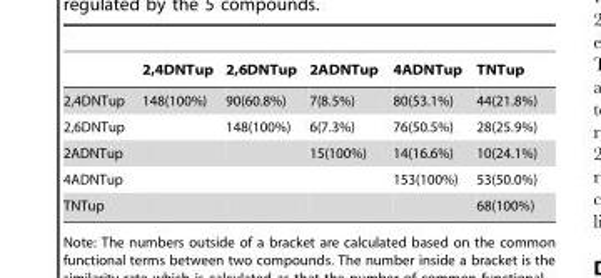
<table><thead><tr><td></td><td>2,4DNTup</td><td>2,6DNTup</td><td>2ADNTup</td><td>4ADNTup</td><td>TNTup</td></tr></thead><tbody><tr><td>2,4DNTup</td><td>148(100%)</td><td>90(60.8%)</td><td>7(8.5%)</td><td>80(53.1%)</td><td>44(21.8%)</td></tr><tr><td>2,6DNTup</td><td></td><td>148(100%)</td><td>6(7.3%)</td><td>76(50.5%)</td><td>28(25.9%)</td></tr><tr><td>2ADNTup</td><td></td><td></td><td>15(100%)</td><td>14(16.6%)</td><td>10(24.1%)</td></tr><tr><td>4ADNTup</td><td></td><td></td><td></td><td>153(100%)</td><td>53(50.0%)</td></tr><tr><td>TNTup</td><td></td><td></td><td></td><td></td><td>68(100%)</td></tr></tbody></table>